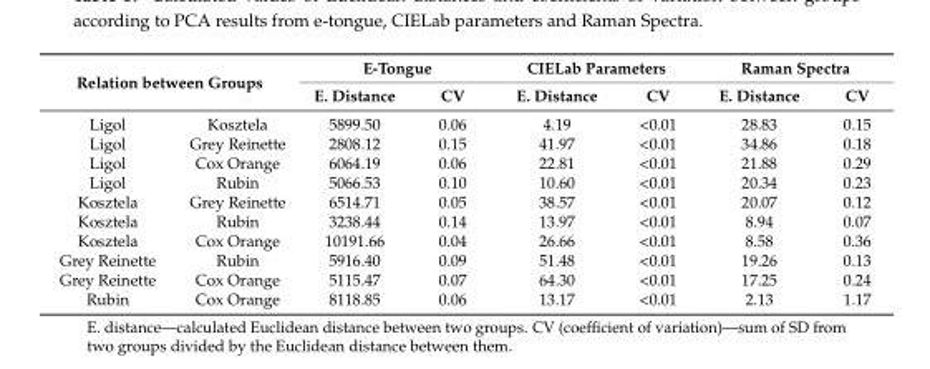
<table><thead><tr><td rowspan="2" colspan="2">Relation between Groups</td><td colspan="2">E-Tongue</td><td colspan="2">CIELab Parameters</td><td colspan="2">Raman Spectra</td></tr><tr><td rowspan="2">E. Distance 5899.50</td><td rowspan="2">CV 0.06</td><td rowspan="2">E. Distance 4.19</td><td rowspan="2">CV &lt;0.01</td><td rowspan="2">E. Distance 28.83</td><td rowspan="2">CV 0.15</td></tr><tr><td>Ligol</td><td>Kosztela</td></tr></thead><tbody><tr><td>Ligol</td><td>Grey Reinette</td><td>2808.12</td><td>0.15</td><td>41.97</td><td>&lt;0.01</td><td>34.86</td><td>0.18</td></tr><tr><td>Ligol</td><td>Cox Orange</td><td>6064.19</td><td>0.06</td><td>22.81</td><td>&lt;0.01</td><td>21.88</td><td>0.29</td></tr><tr><td>Ligol</td><td>Rubin</td><td>5066.53</td><td>0.10</td><td>10.60</td><td>&lt;0.01</td><td>20.34</td><td>0.23</td></tr><tr><td>Kosztela</td><td>Grey Reinette</td><td>6514.71</td><td>0.05</td><td>38.57</td><td>&lt;0.01</td><td>20.07</td><td>0.12</td></tr><tr><td>Kosztela</td><td>Rubin</td><td>3238.44</td><td>0.14</td><td>13.97</td><td>&lt;0.01</td><td>8.94</td><td>0.07</td></tr><tr><td>Kosztela</td><td>Cox Orange</td><td>10191.66</td><td>0.04</td><td>26.66</td><td>&lt;0.01</td><td>8.58</td><td>0.36</td></tr><tr><td>Grey Reinette</td><td>Rubin</td><td>5916.40</td><td>0.09</td><td>51.48</td><td>&lt;0.01</td><td>19.26</td><td>0.13</td></tr><tr><td>Grey Reinette</td><td>Cox Orange</td><td>5115.47</td><td>0.07</td><td>64.30</td><td>&lt;0.01</td><td>17.25</td><td>0.24</td></tr><tr><td>Rubin</td><td>Cox Orange</td><td>8118.85</td><td>0.06</td><td>13.17</td><td>&lt;0.01</td><td>2.13</td><td>1.17</td></tr></tbody></table>